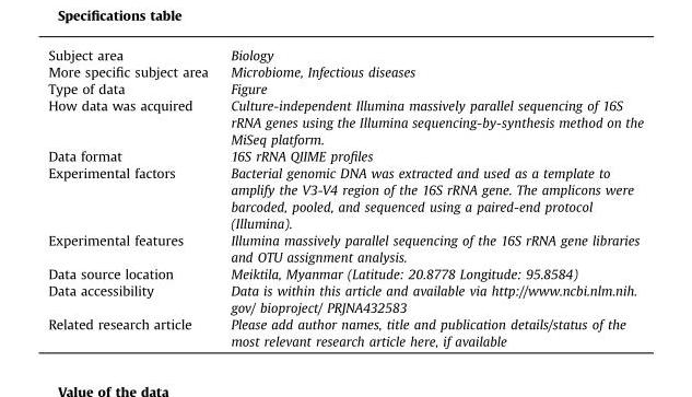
<table><tbody><tr><td>Subject area</td><td>Biology</td></tr><tr><td>More specific subject area</td><td>Microbiome, Infectious diseases</td></tr><tr><td>Type of data</td><td>Figure</td></tr><tr><td>How data was acquired</td><td>Culture-independent Illumina massively parallel sequencing of 16S rRNA genes using the Illumina sequencing-by-synthesis method on the MiSeq platform.</td></tr><tr><td>Data format</td><td>16S rRNA QIIME profiles</td></tr><tr><td>Experimental factors</td><td>Bacterial genomic DNA was extracted and used as a template to amplify the V3-V4 region of the 16S rRNA gene. The amplicons were barcoded, pooled, and sequenced using a paired-end protocol (Illumina).</td></tr><tr><td>Experimental features</td><td>Illumina massively parallel sequencing of the 16S rRNA gene libraries and OTU assignment analysis.</td></tr><tr><td>Data source location</td><td>Meiktila, Myanmar (Latitude: 20.8778 Longitude: 95.8584)</td></tr><tr><td>Data accessibility</td><td>Data is within this article and available via http://www.ncbi.nlm.nih. gov/ bioproject/ PRJNA432583</td></tr><tr><td>Related research article</td><td>Please add author names, title and publication details/status of the most relevant research article here, if available</td></tr></tbody></table>